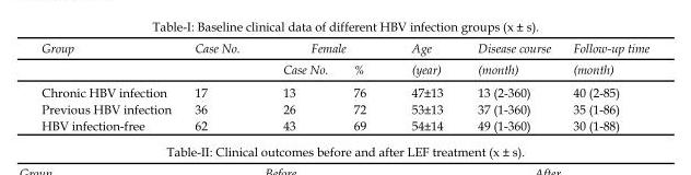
<table><thead><tr><td rowspan="2">Group</td><td rowspan="2">Case No.</td><td colspan="2">Female</td><td rowspan="2">Age (year)</td><td rowspan="2">Disease course (month)</td><td rowspan="2">Follow-up time (month)</td></tr><tr><td>Case No.</td><td>%</td></tr></thead><tbody><tr><td>Chronic HBV infection</td><td>17</td><td>13</td><td>76</td><td>47±13</td><td>13 (2-360)</td><td>40 (2-85)</td></tr><tr><td>Previous HBV infection</td><td>36</td><td>26</td><td>72</td><td>53±13</td><td>37 (1-360)</td><td>35 (1-86)</td></tr><tr><td>HBV infection-free</td><td>62</td><td>43</td><td>69</td><td>54±14</td><td>49 (1-360)</td><td>30 (1-88)</td></tr></tbody></table>